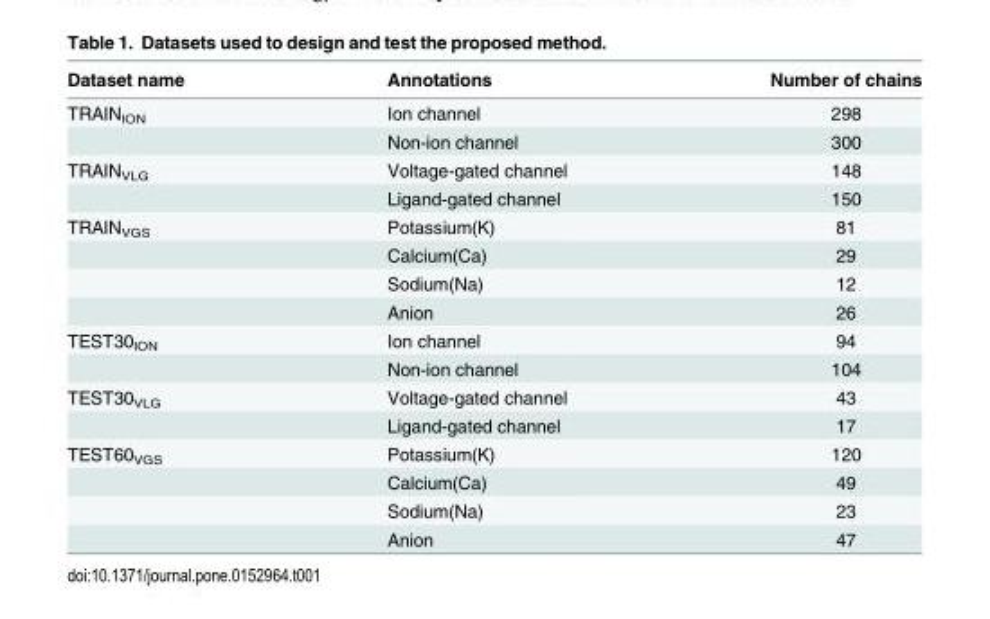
<table><thead><tr><td>Dataset name</td><td>Annotations</td><td>Number of chains</td></tr></thead><tbody><tr><td rowspan="2">TRAIN<sub>ION</sub></td><td>Ion channel</td><td>298</td></tr><tr><td>Non-ion channel</td><td>300</td></tr><tr><td rowspan="2">TRAIN<sub>VLG</sub></td><td>Voltage-gated channel</td><td>148</td></tr><tr><td>Ligand-gated channel</td><td>150</td></tr><tr><td rowspan="4">TRAIN<sub>VGS</sub></td><td>Potassium(K)</td><td>81</td></tr><tr><td>Calcium(Ca)</td><td>29</td></tr><tr><td>Sodium(Na)</td><td>12</td></tr><tr><td>Anion</td><td>26</td></tr><tr><td rowspan="2">TEST30<sub>ION</sub></td><td>Ion channel</td><td>94</td></tr><tr><td>Non-ion channel</td><td>104</td></tr><tr><td rowspan="2">TEST30<sub>VLG</sub></td><td>Voltage-gated channel</td><td>43</td></tr><tr><td>Ligand-gated channel</td><td>17</td></tr><tr><td rowspan="4">TEST60<sub>VGS</sub></td><td>Potassium(K)</td><td>120</td></tr><tr><td>Calcium(Ca)</td><td>49</td></tr><tr><td>Sodium(Na)</td><td>23</td></tr><tr><td>Anion</td><td>47</td></tr></tbody></table>